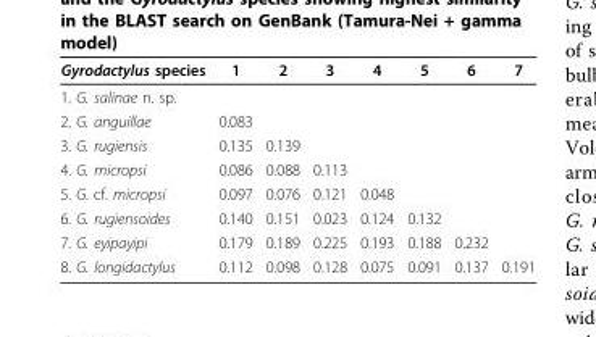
<table><thead><tr><td>Gyrodactylus species</td><td>1</td><td>2</td><td>3</td><td>4</td><td>5</td><td>6</td><td>7</td></tr></thead><tbody><tr><td colspan="8">1. G. salinae n. sp.</td></tr><tr><td>2. G. anguillae</td><td>0.083</td><td></td><td></td><td></td><td></td><td></td><td></td></tr><tr><td>3. G. rugiensis</td><td>0.135</td><td>0.139</td><td></td><td></td><td></td><td></td><td></td></tr><tr><td>4. G. micropsi</td><td>0.086</td><td>0.088</td><td>0.113</td><td></td><td></td><td></td><td></td></tr><tr><td>5. G. cf. micropsi</td><td>0.097</td><td>0.076</td><td>0.121</td><td>0.048</td><td></td><td></td><td></td></tr><tr><td>6. G. rugiensoides</td><td>0.140</td><td>0.151</td><td>0.023</td><td>0.124</td><td>0.132</td><td></td><td></td></tr><tr><td>7. G. eyipayipi</td><td>0.179</td><td>0.189</td><td>0.225</td><td>0.193</td><td>0.188</td><td>0.232</td><td></td></tr><tr><td>8. G. longidactylus</td><td>0.112</td><td>0.098</td><td>0.128</td><td>0.075</td><td>0.091</td><td>0.137</td><td>0.191</td></tr></tbody></table>